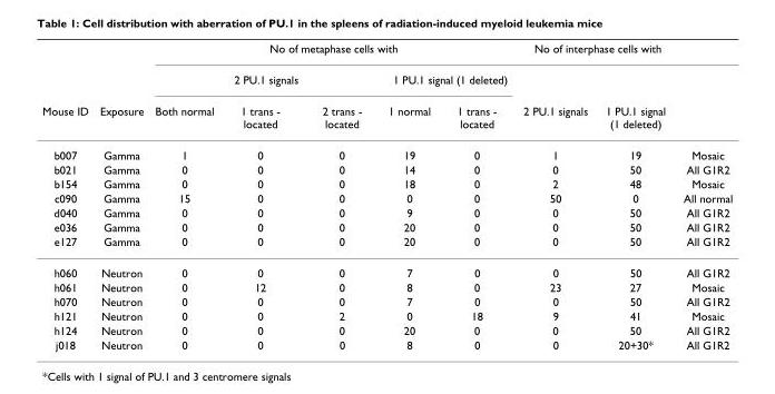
<table><thead><tr><td rowspan="3">Mouse ID</td><td rowspan="3">Exposure</td><td colspan="5">No of metaphase cells with</td><td colspan="2">No of interphase cells with</td><td rowspan="3"></td></tr><tr><td colspan="3">2 PU.1 signals</td><td colspan="2">1 PU.1 signal (1 deleted)</td><td rowspan="2">2 PU.1 signals</td><td rowspan="2">1 PU.1 signal (1 deleted)</td></tr><tr><td>Both normal</td><td>1 trans - located</td><td>2 trans - located</td><td>1 normal</td><td>1 trans - located</td></tr></thead><tbody><tr><td>b007</td><td>Gamma</td><td>1</td><td>0</td><td>0</td><td>19</td><td>0</td><td>1</td><td>19</td><td>Mosaic</td></tr><tr><td>b021</td><td>Gamma</td><td>0</td><td>0</td><td>0</td><td>14</td><td>0</td><td>0</td><td>50</td><td>All G1R2</td></tr><tr><td>b154</td><td>Gamma</td><td>0</td><td>0</td><td>0</td><td>18</td><td>0</td><td>2</td><td>48</td><td>Mosaic</td></tr><tr><td>c090</td><td>Gamma</td><td>15</td><td>0</td><td>0</td><td>0</td><td>0</td><td>50</td><td>0</td><td>All normal</td></tr><tr><td>d040</td><td>Gamma</td><td>0</td><td>0</td><td>0</td><td>9</td><td>0</td><td>0</td><td>50</td><td>All G1R2</td></tr><tr><td>e036</td><td>Gamma</td><td>0</td><td>0</td><td>0</td><td>20</td><td>0</td><td>0</td><td>50</td><td>All G1R2</td></tr><tr><td>e127</td><td>Gamma</td><td>0</td><td>0</td><td>0</td><td>20</td><td>0</td><td>0</td><td>50</td><td>All G1R2</td></tr><tr><td>h060</td><td>Neutron</td><td>0</td><td>0</td><td>0</td><td>7</td><td>0</td><td>0</td><td>50</td><td>All G1R2</td></tr><tr><td>h061</td><td>Neutron</td><td>0</td><td>12</td><td>0</td><td>8</td><td>0</td><td>23</td><td>27</td><td>Mosaic</td></tr><tr><td>h070</td><td>Neutron</td><td>0</td><td>0</td><td>0</td><td>7</td><td>0</td><td>0</td><td>50</td><td>All G1R2</td></tr><tr><td>h121</td><td>Neutron</td><td>0</td><td>0</td><td>2</td><td>0</td><td>18</td><td>9</td><td>41</td><td>Mosaic</td></tr><tr><td>h124</td><td>Neutron</td><td>0</td><td>0</td><td>0</td><td>20</td><td>0</td><td>0</td><td>50</td><td>All G1R2</td></tr><tr><td>j018</td><td>Neutron</td><td>0</td><td>0</td><td>0</td><td>8</td><td>0</td><td>0</td><td>20+30*</td><td>All G1R2</td></tr></tbody></table>